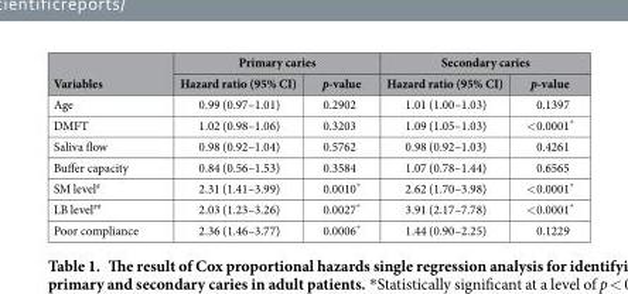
<table><thead><tr><td rowspan="2">Variables</td><td colspan="2">Primary caries</td><td colspan="2">Secondary caries</td></tr><tr><td>Hazard ratio (95% CI)</td><td>p-value</td><td>Hazard ratio (95% CI)</td><td>p-value</td></tr></thead><tbody><tr><td>Age</td><td>0.99 (0.97–1.01)</td><td>0.2902</td><td>1.01 (1.00–1.03)</td><td>0.1397</td></tr><tr><td>DMFT</td><td>1.02 (0.98–1.06)</td><td>0.3203</td><td>1.09 (1.05–1.03)</td><td>&lt; 0.0001*</td></tr><tr><td>Saliva flow</td><td>0.98 (0.92–1.04)</td><td>0.5762</td><td>0.98 (0.92–1.03)</td><td>0.4261</td></tr><tr><td>Buffer capacity</td><td>0.84 (0.56–1.53)</td><td>0.3584</td><td>1.07 (0.78–1.44)</td><td>0.6565</td></tr><tr><td>SM level#</td><td>2.31 (1.41–3.99)</td><td>0.0010*</td><td>2.62 (1.70–3.98)</td><td>&lt; 0.0001*</td></tr><tr><td>LB level##</td><td>2.03 (1.23–3.26)</td><td>0.0027*</td><td>3.91 (2.17–7.78)</td><td>&lt; 0.0001*</td></tr><tr><td>Poor compliance</td><td>2.36 (1.46–3.77)</td><td>0.0006*</td><td>1.44 (0.90–2.25)</td><td>0.1229</td></tr></tbody></table>